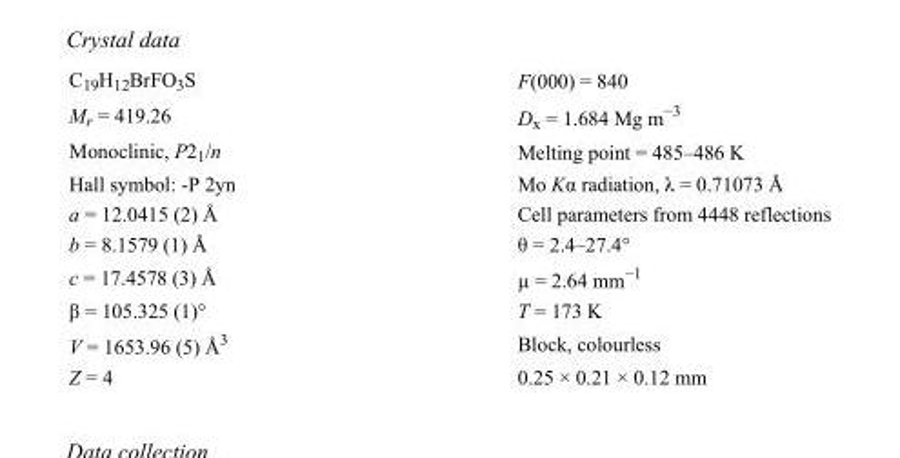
<table><tbody><tr><td>C<sub>19</sub>H<sub>12</sub>BrFO<sub>3</sub>S</td><td>F(000) = 840</td></tr><tr><td>M<sub>r</sub> = 419.26</td><td>D<sub>x</sub> = 1.684 Mg m<sup>−3</sup></td></tr><tr><td>Monoclinic, P2<sub>1</sub>/n</td><td>Melting point = 485–486 K</td></tr><tr><td>Hall symbol: -P 2yn</td><td>Mo Kα radiation, λ = 0.71073 Å</td></tr><tr><td>a = 12.0415 (2) Å</td><td>Cell parameters from 4448 reflections</td></tr><tr><td>b = 8.1579 (1) Å</td><td>θ = 2.4–27.4°</td></tr><tr><td>c = 17.4578 (3) Å</td><td>µ = 2.64 mm<sup>−1</sup></td></tr><tr><td>β = 105.325 (1)°</td><td>T = 173 K</td></tr><tr><td>V = 1653.96 (5) Å<sup>3</sup></td><td>Block, colourless</td></tr><tr><td>Z = 4</td><td>0.25 × 0.21 × 0.12 mm</td></tr></tbody></table>